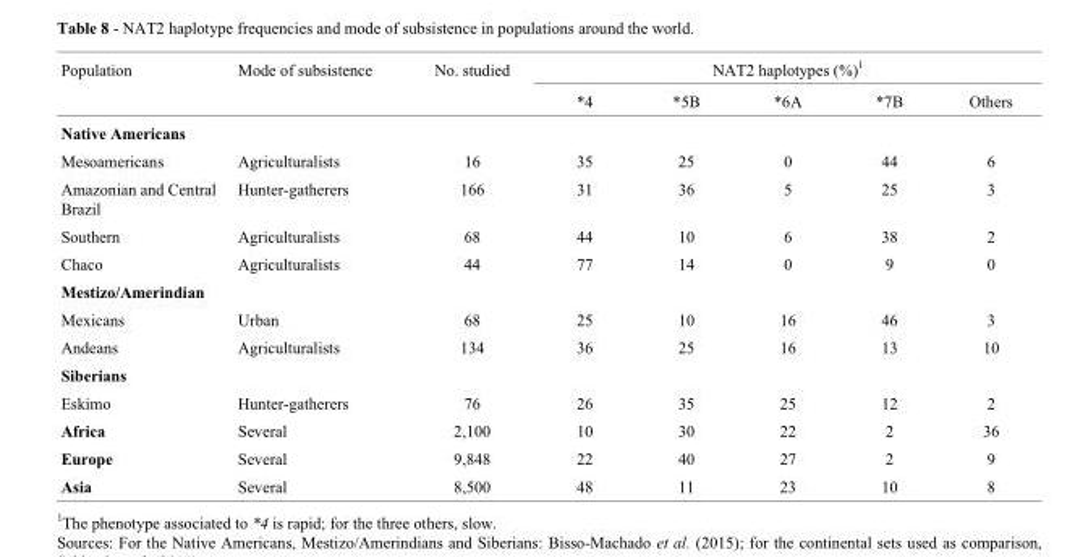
<table><thead><tr><td rowspan="2">Population</td><td rowspan="2">Mode of subsistence</td><td rowspan="2">No. studied</td><td colspan="5">NAT2 haplotypes (%)<sup>1</sup></td></tr><tr><td>*4</td><td>*5B</td><td>*6A</td><td>*7B</td><td>Others</td></tr></thead><tbody><tr><td colspan="8">Native Americans</td></tr><tr><td>Mesoamericans</td><td>Agriculturalists</td><td>16</td><td>35</td><td>25</td><td>0</td><td>44</td><td>6</td></tr><tr><td>Amazonian and Central Brazil</td><td>Hunter-gatherers</td><td>166</td><td>31</td><td>36</td><td>5</td><td>25</td><td>3</td></tr><tr><td>Southern</td><td>Agriculturalists</td><td>68</td><td>44</td><td>10</td><td>6</td><td>38</td><td>2</td></tr><tr><td>Chaco</td><td>Agriculturalists</td><td>44</td><td>77</td><td>14</td><td>0</td><td>9</td><td>0</td></tr><tr><td colspan="8">Mestizo/Amerindian</td></tr><tr><td>Mexicans</td><td>Urban</td><td>68</td><td>25</td><td>10</td><td>16</td><td>46</td><td>3</td></tr><tr><td>Andeans</td><td>Agriculturalists</td><td>134</td><td>36</td><td>25</td><td>16</td><td>13</td><td>10</td></tr><tr><td colspan="8">Siberians</td></tr><tr><td>Eskimo</td><td>Hunter-gatherers</td><td>76</td><td>26</td><td>35</td><td>25</td><td>12</td><td>2</td></tr><tr><td>Africa</td><td>Several</td><td>2,100</td><td>10</td><td>30</td><td>22</td><td>2</td><td>36</td></tr><tr><td>Europe</td><td>Several</td><td>9,848</td><td>22</td><td>40</td><td>27</td><td>2</td><td>9</td></tr><tr><td>Asia</td><td>Several</td><td>8,500</td><td>48</td><td>11</td><td>23</td><td>10</td><td>8</td></tr></tbody></table>